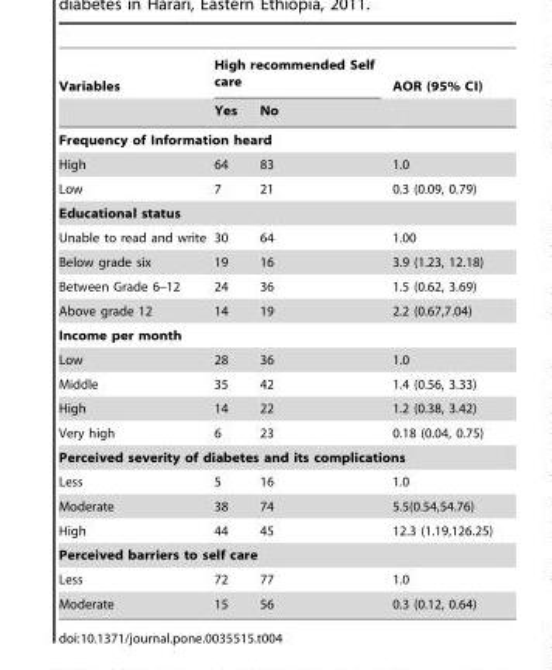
<table><thead><tr><td rowspan="2">Variables</td><td colspan="2">High recommended Self care</td><td rowspan="2">AOR (95% CI)</td></tr><tr><td>Yes</td><td>No</td></tr></thead><tbody><tr><td colspan="4">Frequency of Information heard</td></tr><tr><td>High</td><td>64</td><td>83</td><td>1.0</td></tr><tr><td>Low</td><td>7</td><td>21</td><td>0.3 (0.09, 0.79)</td></tr><tr><td colspan="4">Educational status</td></tr><tr><td>Unable to read and write</td><td>30</td><td>64</td><td>1.00</td></tr><tr><td>Below grade six</td><td>19</td><td>16</td><td>3.9 (1.23, 12.18)</td></tr><tr><td>Between Grade 6–12</td><td>24</td><td>36</td><td>1.5 (0.62, 3.69)</td></tr><tr><td>Above grade 12</td><td>14</td><td>19</td><td>2.2 (0.67,7.04)</td></tr><tr><td colspan="4">Income per month</td></tr><tr><td>Low</td><td>28</td><td>36</td><td>1.0</td></tr><tr><td>Middle</td><td>35</td><td>42</td><td>1.4 (0.56, 3.33)</td></tr><tr><td>High</td><td>14</td><td>22</td><td>1.2 (0.38, 3.42)</td></tr><tr><td>Very high</td><td>6</td><td>23</td><td>0.18 (0.04, 0.75)</td></tr><tr><td colspan="4">Perceived severity of diabetes and its complications</td></tr><tr><td>Less</td><td>5</td><td>16</td><td>1.0</td></tr><tr><td>Moderate</td><td>38</td><td>74</td><td>5.5(0.54,54.76)</td></tr><tr><td>High</td><td>44</td><td>45</td><td>12.3 (1.19,126.25)</td></tr><tr><td colspan="4">Perceived barriers to self care</td></tr><tr><td>Less</td><td>72</td><td>77</td><td>1.0</td></tr><tr><td>Moderate</td><td>15</td><td>56</td><td>0.3 (0.12, 0.64)</td></tr></tbody></table>